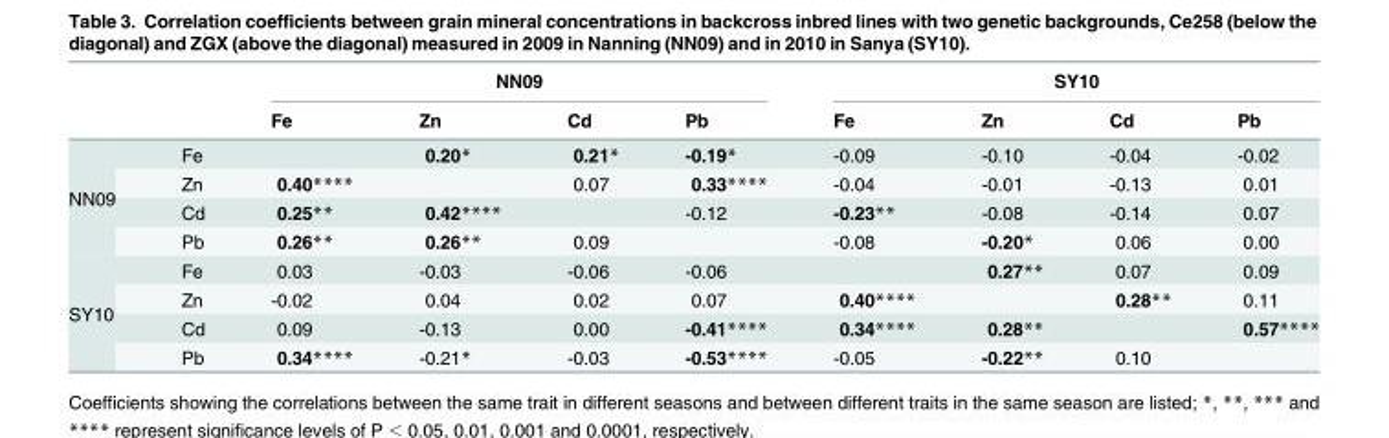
<table><thead><tr><td rowspan="2"></td><td rowspan="2"></td><td colspan="4">NN09</td><td colspan="4">SY10</td></tr><tr><td>Fe</td><td>Zn</td><td>Cd</td><td>Pb</td><td>Fe</td><td>Zn</td><td>Cd</td><td>Pb</td></tr></thead><tbody><tr><td rowspan="4">NN09</td><td>Fe</td><td></td><td>0.20*</td><td>0.21*</td><td>-0.19*</td><td>-0.09</td><td>-0.10</td><td>-0.04</td><td>-0.02</td></tr><tr><td>Zn</td><td>0.40****</td><td></td><td>0.07</td><td>0.33****</td><td>-0.04</td><td>-0.01</td><td>-0.13</td><td>0.01</td></tr><tr><td>Cd</td><td>0.25**</td><td>0.42****</td><td></td><td>-0.12</td><td>-0.23**</td><td>-0.08</td><td>-0.14</td><td>0.07</td></tr><tr><td>Pb</td><td>0.26**</td><td>0.26**</td><td>0.09</td><td></td><td>-0.08</td><td>-0.20*</td><td>0.06</td><td>0.00</td></tr><tr><td rowspan="4">SY10</td><td>Fe</td><td>0.03</td><td>-0.03</td><td>-0.06</td><td>-0.06</td><td></td><td>0.27**</td><td>0.07</td><td>0.09</td></tr><tr><td>Zn</td><td>-0.02</td><td>0.04</td><td>0.02</td><td>0.07</td><td>0.40****</td><td></td><td>0.28**</td><td>0.11</td></tr><tr><td>Cd</td><td>0.09</td><td>-0.13</td><td>0.00</td><td>-0.41****</td><td>0.34****</td><td>0.28**</td><td></td><td>0.57****</td></tr><tr><td>Pb</td><td>0.34****</td><td>-0.21*</td><td>-0.03</td><td>-0.53****</td><td>-0.05</td><td>-0.22**</td><td>0.10</td><td></td></tr></tbody></table>